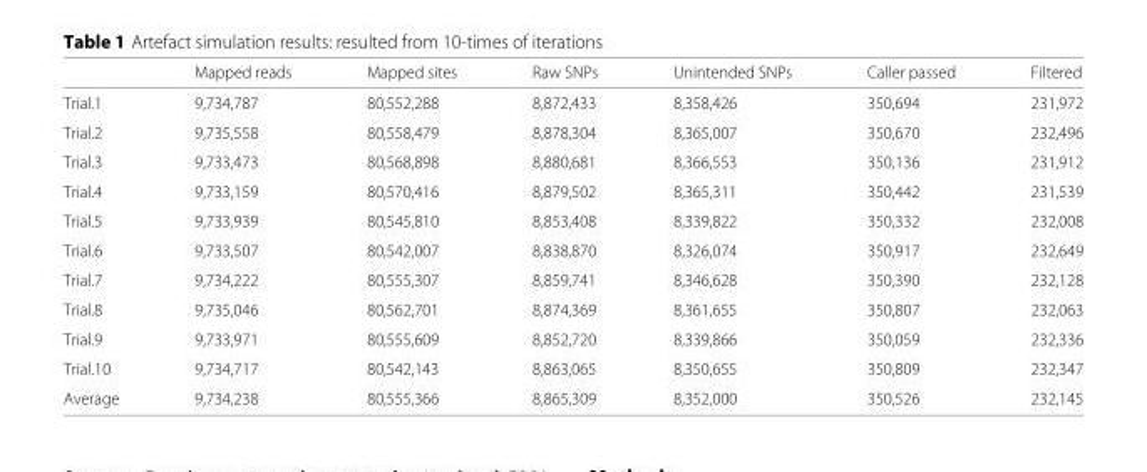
<table><thead><tr><td></td><td>Mapped reads</td><td>Mapped sites</td><td>Raw SNPs</td><td>Unintended SNPs</td><td>Caller passed</td><td>Filtered</td></tr></thead><tbody><tr><td>Trial.1</td><td>9,734,787</td><td>80,552,288</td><td>8,872,433</td><td>8,358,426</td><td>350,694</td><td>231,972</td></tr><tr><td>Trial.2</td><td>9,735,558</td><td>80,558,479</td><td>8,878,304</td><td>8,365,007</td><td>350,670</td><td>232,496</td></tr><tr><td>Trial.3</td><td>9,733,473</td><td>80,568,898</td><td>8,880,681</td><td>8,366,553</td><td>350,136</td><td>231,912</td></tr><tr><td>Trial.4</td><td>9,733,159</td><td>80,570,416</td><td>8,879,502</td><td>8,365,311</td><td>350,442</td><td>231,539</td></tr><tr><td>Trial.5</td><td>9,733,939</td><td>80,545,810</td><td>8,853,408</td><td>8,339,822</td><td>350,332</td><td>232,008</td></tr><tr><td>Trial.6</td><td>9,733,507</td><td>80,542,007</td><td>8,838,870</td><td>8,326,074</td><td>350,917</td><td>232,649</td></tr><tr><td>Trial.7</td><td>9,734,222</td><td>80,555,307</td><td>8,859,741</td><td>8,346,628</td><td>350,390</td><td>232,128</td></tr><tr><td>Trial.8</td><td>9,735,046</td><td>80,562,701</td><td>8,874,369</td><td>8,361,655</td><td>350,807</td><td>232,063</td></tr><tr><td>Trial.9</td><td>9,733,971</td><td>80,555,609</td><td>8,852,720</td><td>8,339,866</td><td>350,059</td><td>232,336</td></tr><tr><td>Trial.10</td><td>9,734,717</td><td>80,542,143</td><td>8,863,065</td><td>8,350,655</td><td>350,809</td><td>232,347</td></tr><tr><td>Average</td><td>9,734,238</td><td>80,555,366</td><td>8,865,309</td><td>8,352,000</td><td>350,526</td><td>232,145</td></tr></tbody></table>